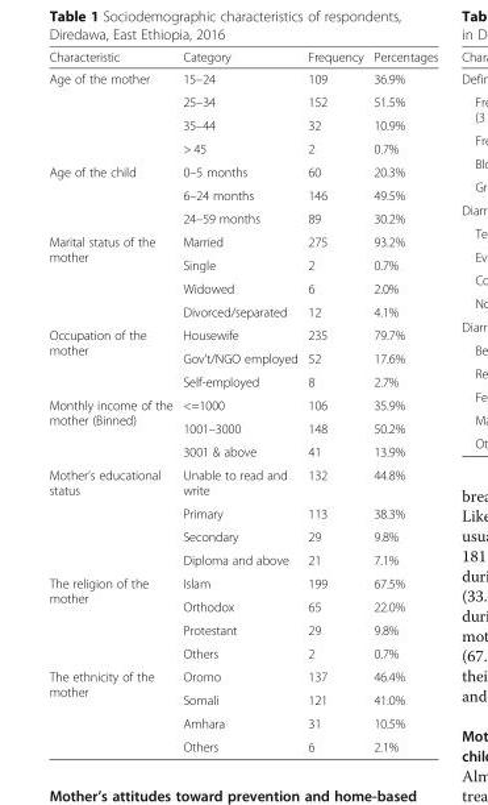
<table><thead><tr><td>Characteristic</td><td>Category</td><td>Frequency</td><td>Percentages</td></tr></thead><tbody><tr><td rowspan="4">Age of the mother</td><td>15–24</td><td>109</td><td>36.9%</td></tr><tr><td>25–34</td><td>152</td><td>51.5%</td></tr><tr><td>35–44</td><td>32</td><td>10.9%</td></tr><tr><td>&gt; 45</td><td>2</td><td>0.7%</td></tr><tr><td rowspan="3">Age of the child</td><td>0–5 months</td><td>60</td><td>20.3%</td></tr><tr><td>6–24 months</td><td>146</td><td>49.5%</td></tr><tr><td>24–59 months</td><td>89</td><td>30.2%</td></tr><tr><td rowspan="4">Marital status of the mother</td><td>Married</td><td>275</td><td>93.2%</td></tr><tr><td>Single</td><td>2</td><td>0.7%</td></tr><tr><td>Widowed</td><td>6</td><td>2.0%</td></tr><tr><td>Divorced/separated</td><td>12</td><td>4.1%</td></tr><tr><td rowspan="3">Occupation of the mother</td><td>Housewife</td><td>235</td><td>79.7%</td></tr><tr><td>Gov’t/NGO employed</td><td>52</td><td>17.6%</td></tr><tr><td>Self-employed</td><td>8</td><td>2.7%</td></tr><tr><td rowspan="3">Monthly income of the mother (Binned)</td><td>&lt;=1000</td><td>106</td><td>35.9%</td></tr><tr><td>1001–3000</td><td>148</td><td>50.2%</td></tr><tr><td>3001 &amp; above</td><td>41</td><td>13.9%</td></tr><tr><td rowspan="4">Mother’s educational status</td><td>Unable to read and write</td><td>132</td><td>44.8%</td></tr><tr><td>Primary</td><td>113</td><td>38.3%</td></tr><tr><td>Secondary</td><td>29</td><td>9.8%</td></tr><tr><td>Diploma and above</td><td>21</td><td>7.1%</td></tr><tr><td rowspan="4">The religion of the mother</td><td>Islam</td><td>199</td><td>67.5%</td></tr><tr><td>Orthodox</td><td>65</td><td>22.0%</td></tr><tr><td>Protestant</td><td>29</td><td>9.8%</td></tr><tr><td>Others</td><td>2</td><td>0.7%</td></tr><tr><td rowspan="4">The ethnicity of the mother</td><td>Oromo</td><td>137</td><td>46.4%</td></tr><tr><td>Somali</td><td>121</td><td>41.0%</td></tr><tr><td>Amhara</td><td>31</td><td>10.5%</td></tr><tr><td>Others</td><td>6</td><td>2.1%</td></tr></tbody></table>